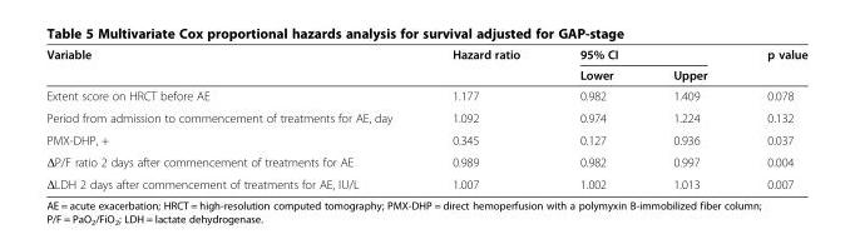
<table><thead><tr><td rowspan="2">Variable</td><td rowspan="2">Hazard ratio</td><td colspan="2">95% CI</td><td rowspan="2">p value</td></tr><tr><td>Lower</td><td>Upper</td></tr></thead><tbody><tr><td>Extent score on HRCT before AE</td><td>1.177</td><td>0.982</td><td>1.409</td><td>0.078</td></tr><tr><td>Period from admission to commencement of treatments for AE, day</td><td>1.092</td><td>0.974</td><td>1.224</td><td>0.132</td></tr><tr><td>PMX-DHP, +</td><td>0.345</td><td>0.127</td><td>0.936</td><td>0.037</td></tr><tr><td>ΔP/F ratio 2 days after commencement of treatments for AE</td><td>0.989</td><td>0.982</td><td>0.997</td><td>0.004</td></tr><tr><td>ΔLDH 2 days after commencement of treatments for AE, IU/L</td><td>1.007</td><td>1.002</td><td>1.013</td><td>0.007</td></tr></tbody></table>